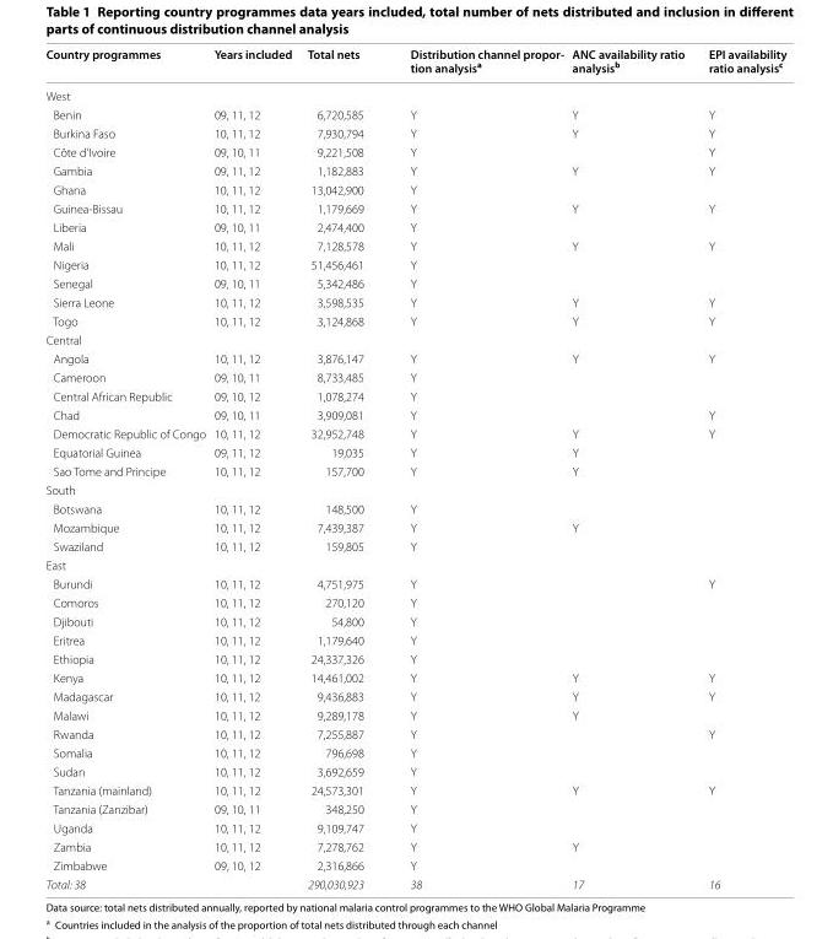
<table><thead><tr><td>Country programmes</td><td>Years included</td><td>Total nets</td><td>Distribution channel propor- tion analysisa</td><td>ANC availability ratio analysis<sup>b</sup></td><td>EPI availability ratio analysis<sup>c</sup></td></tr></thead><tbody><tr><td colspan="6">West</td></tr><tr><td>Benin</td><td>09, 11, 12</td><td>6,720,585</td><td>Y</td><td>Y</td><td>Y</td></tr><tr><td>Burkina Faso</td><td>10, 11, 12</td><td>7,930,794</td><td>Y</td><td>Y</td><td>Y</td></tr><tr><td>Côte d’Ivoire</td><td>09, 10, 11</td><td>9,221,508</td><td>Y</td><td></td><td>Y</td></tr><tr><td>Gambia</td><td>09, 11, 12</td><td>1,182,883</td><td>Y</td><td>Y</td><td>Y</td></tr><tr><td>Ghana</td><td>10, 11, 12</td><td>13,042,900</td><td>Y</td><td></td><td></td></tr><tr><td>Guinea‑Bissau</td><td>10, 11, 12</td><td>1,179,669</td><td>Y</td><td>Y</td><td>Y</td></tr><tr><td>Liberia</td><td>09, 10, 11</td><td>2,474,400</td><td>Y</td><td></td><td></td></tr><tr><td>Mali</td><td>10, 11, 12</td><td>7,128,578</td><td>Y</td><td>Y</td><td>Y</td></tr><tr><td>Nigeria</td><td>10, 11, 12</td><td>51,456,461</td><td>Y</td><td></td><td></td></tr><tr><td>Senegal</td><td>09, 10, 11</td><td>5,342,486</td><td>Y</td><td></td><td></td></tr><tr><td>Sierra Leone</td><td>10, 11, 12</td><td>3,598,535</td><td>Y</td><td>Y</td><td>Y</td></tr><tr><td>Togo</td><td>10, 11, 12</td><td>3,124,868</td><td>Y</td><td>Y</td><td>Y</td></tr><tr><td colspan="6">Central</td></tr><tr><td>Angola</td><td>10, 11, 12</td><td>3,876,147</td><td>Y</td><td>Y</td><td>Y</td></tr><tr><td>Cameroon</td><td>09, 10, 11</td><td>8,733,485</td><td>Y</td><td></td><td></td></tr><tr><td>Central African Republic</td><td>09, 10, 12</td><td>1,078,274</td><td>Y</td><td></td><td></td></tr><tr><td>Chad</td><td>09, 10, 11</td><td>3,909,081</td><td>Y</td><td></td><td>Y</td></tr><tr><td>Democratic Republic of Congo</td><td>10, 11, 12</td><td>32,952,748</td><td>Y</td><td>Y</td><td>Y</td></tr><tr><td>Equatorial Guinea</td><td>09, 11, 12</td><td>19,035</td><td>Y</td><td>Y</td><td></td></tr><tr><td>Sao Tome and Principe</td><td>10, 11, 12</td><td>157,700</td><td>Y</td><td>Y</td><td></td></tr><tr><td colspan="6">South</td></tr><tr><td>Botswana</td><td>10, 11, 12</td><td>148,500</td><td>Y</td><td></td><td></td></tr><tr><td>Mozambique</td><td>10, 11, 12</td><td>7,439,387</td><td>Y</td><td>Y</td><td></td></tr><tr><td>Swaziland</td><td>10, 11, 12</td><td>159,805</td><td>Y</td><td></td><td></td></tr><tr><td colspan="6">East</td></tr><tr><td>Burundi</td><td>10, 11, 12</td><td>4,751,975</td><td>Y</td><td></td><td>Y</td></tr><tr><td>Comoros</td><td>10, 11, 12</td><td>270,120</td><td>Y</td><td></td><td></td></tr><tr><td>Djibouti</td><td>10, 11, 12</td><td>54,800</td><td>Y</td><td></td><td></td></tr><tr><td>Eritrea</td><td>10, 11, 12</td><td>1,179,640</td><td>Y</td><td></td><td></td></tr><tr><td>Ethiopia</td><td>10, 11, 12</td><td>24,337,326</td><td>Y</td><td></td><td></td></tr><tr><td>Kenya</td><td>10, 11, 12</td><td>14,461,002</td><td>Y</td><td>Y</td><td>Y</td></tr><tr><td>Madagascar</td><td>10, 11, 12</td><td>9,436,883</td><td>Y</td><td>Y</td><td>Y</td></tr><tr><td>Malawi</td><td>10, 11, 12</td><td>9,289,178</td><td>Y</td><td>Y</td><td></td></tr><tr><td>Rwanda</td><td>10, 11, 12</td><td>7,255,887</td><td>Y</td><td></td><td>Y</td></tr><tr><td>Somalia</td><td>10, 11, 12</td><td>796,698</td><td>Y</td><td></td><td></td></tr><tr><td>Sudan</td><td>10, 11, 12</td><td>3,692,659</td><td>Y</td><td></td><td></td></tr><tr><td>Tanzania (mainland)</td><td>10, 11, 12</td><td>24,573,301</td><td>Y</td><td>Y</td><td>Y</td></tr><tr><td>Tanzania (Zanzibar)</td><td>09, 10, 11</td><td>348,250</td><td>Y</td><td></td><td></td></tr><tr><td>Uganda</td><td>10, 11, 12</td><td>9,109,747</td><td>Y</td><td></td><td></td></tr><tr><td>Zambia</td><td>10, 11, 12</td><td>7,278,762</td><td>Y</td><td>Y</td><td></td></tr><tr><td>Zimbabwe</td><td>09, 10, 12</td><td>2,316,866</td><td>Y</td><td></td><td></td></tr><tr><td>Total: 38</td><td></td><td>290,030,923</td><td>38</td><td>17</td><td>16</td></tr></tbody></table>